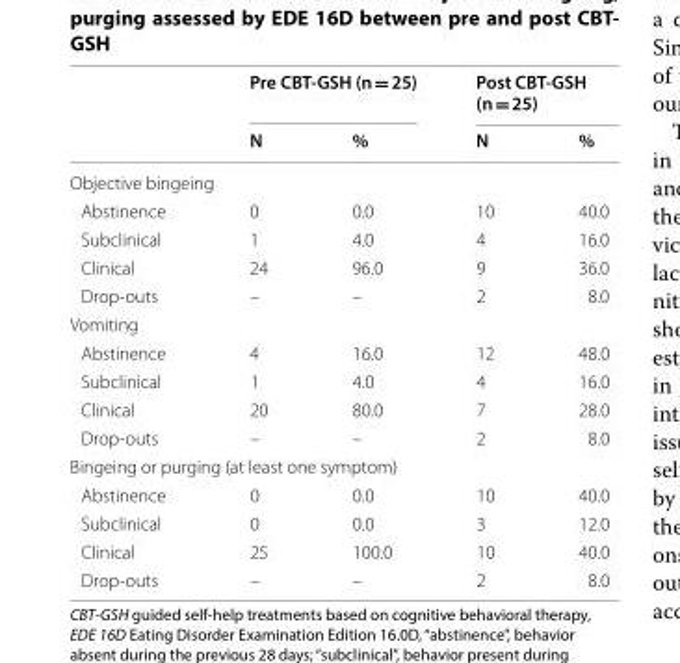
<table><thead><tr><td rowspan="2"></td><td colspan="2">Pre CBT-GSH (n = 25)</td><td colspan="2">Post CBT-GSH (n = 25)</td></tr><tr><td>N</td><td>%</td><td>N</td><td>%</td></tr></thead><tbody><tr><td colspan="5">Objective bingeing</td></tr><tr><td>Abstinence</td><td>0</td><td>0.0</td><td>10</td><td>40.0</td></tr><tr><td>Subclinical</td><td>1</td><td>4.0</td><td>4</td><td>16.0</td></tr><tr><td>Clinical</td><td>24</td><td>96.0</td><td>9</td><td>36.0</td></tr><tr><td>Drop-outs</td><td>–</td><td>–</td><td>2</td><td>8.0</td></tr><tr><td colspan="5">Vomiting</td></tr><tr><td>Abstinence</td><td>4</td><td>16.0</td><td>12</td><td>48.0</td></tr><tr><td>Subclinical</td><td>1</td><td>4.0</td><td>4</td><td>16.0</td></tr><tr><td>Clinical</td><td>20</td><td>80.0</td><td>7</td><td>28.0</td></tr><tr><td>Drop-outs</td><td>–</td><td>–</td><td>2</td><td>8.0</td></tr><tr><td colspan="5">Bingeing or purging (at least one symptom)</td></tr><tr><td>Abstinence</td><td>0</td><td>0.0</td><td>10</td><td>40.0</td></tr><tr><td>Subclinical</td><td>0</td><td>0.0</td><td>3</td><td>12.0</td></tr><tr><td>Clinical</td><td>25</td><td>100.0</td><td>10</td><td>40.0</td></tr><tr><td>Drop-outs</td><td>–</td><td>–</td><td>2</td><td>8.0</td></tr></tbody></table>